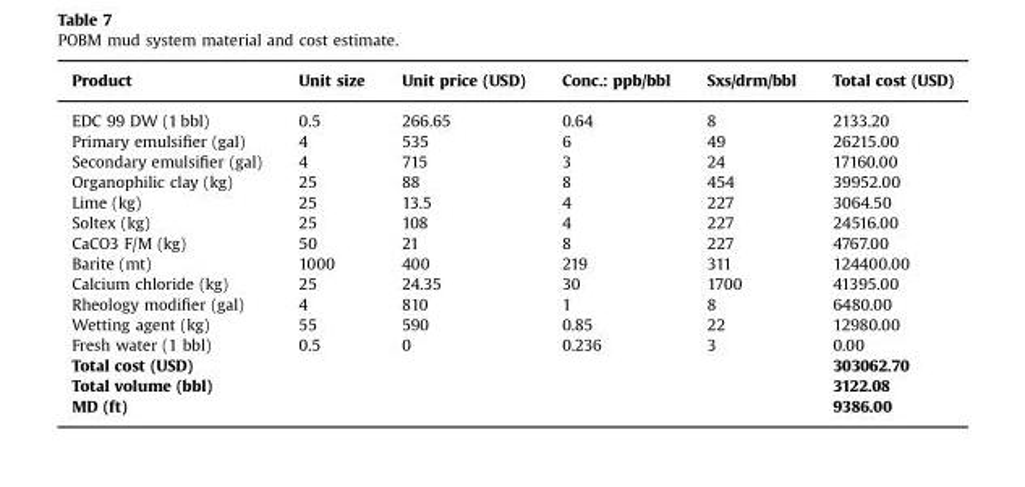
<table><thead><tr><td>Product</td><td>Unit size</td><td>Unit price (USD)</td><td>Conc.: ppb/bbl</td><td>Sxs/drm/bbl</td><td>Total cost (USD)</td></tr></thead><tbody><tr><td>EDC 99 DW (1 bbl)</td><td>0.5</td><td>266.65</td><td>0.64</td><td>8</td><td>2133.20</td></tr><tr><td>Primary emulsifier (gal)</td><td>4</td><td>535</td><td>6</td><td>49</td><td>26215.00</td></tr><tr><td>Secondary emulsifier (gal)</td><td>4</td><td>715</td><td>3</td><td>24</td><td>17160.00</td></tr><tr><td>Organophilic clay (kg)</td><td>25</td><td>88</td><td>8</td><td>454</td><td>39952.00</td></tr><tr><td>Lime (kg)</td><td>25</td><td>13.5</td><td>4</td><td>227</td><td>3064.50</td></tr><tr><td>Soltex (kg)</td><td>25</td><td>108</td><td>4</td><td>227</td><td>24516.00</td></tr><tr><td>CaCO3 F/M (kg)</td><td>50</td><td>21</td><td>8</td><td>227</td><td>4767.00</td></tr><tr><td>Barite (mt)</td><td>1000</td><td>400</td><td>219</td><td>311</td><td>124400.00</td></tr><tr><td>Calcium chloride (kg)</td><td>25</td><td>24.35</td><td>30</td><td>1700</td><td>41395.00</td></tr><tr><td>Rheology modifier (gal)</td><td>4</td><td>810</td><td>1</td><td>8</td><td>6480.00</td></tr><tr><td>Wetting agent (kg)</td><td>55</td><td>590</td><td>0.85</td><td>22</td><td>12980.00</td></tr><tr><td>Fresh water (1 bbl)</td><td>0.5</td><td>0</td><td>0.236</td><td>3</td><td>0.00</td></tr><tr><td>Total cost (USD)</td><td></td><td></td><td></td><td></td><td>303062.70</td></tr><tr><td>Total volume (bbl)</td><td></td><td></td><td></td><td></td><td>3122.08</td></tr><tr><td>MD (ft)</td><td></td><td></td><td></td><td></td><td>9386.00</td></tr></tbody></table>